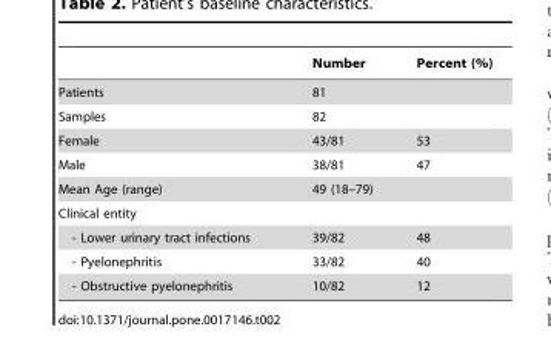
<table><thead><tr><td></td><td>Number</td><td>Percent (%)</td></tr></thead><tbody><tr><td>Patients</td><td>81</td><td></td></tr><tr><td>Samples</td><td>82</td><td></td></tr><tr><td>Female</td><td>43/81</td><td>53</td></tr><tr><td>Male</td><td>38/81</td><td>47</td></tr><tr><td>Mean Age (range)</td><td>49 (18–79)</td><td></td></tr><tr><td colspan="3">Clinical entity</td></tr><tr><td>- Lower urinary tract infections</td><td>39/82</td><td>48</td></tr><tr><td>- Pyelonephritis</td><td>33/82</td><td>40</td></tr><tr><td>- Obstructive pyelonephritis</td><td>10/82</td><td>12</td></tr></tbody></table>